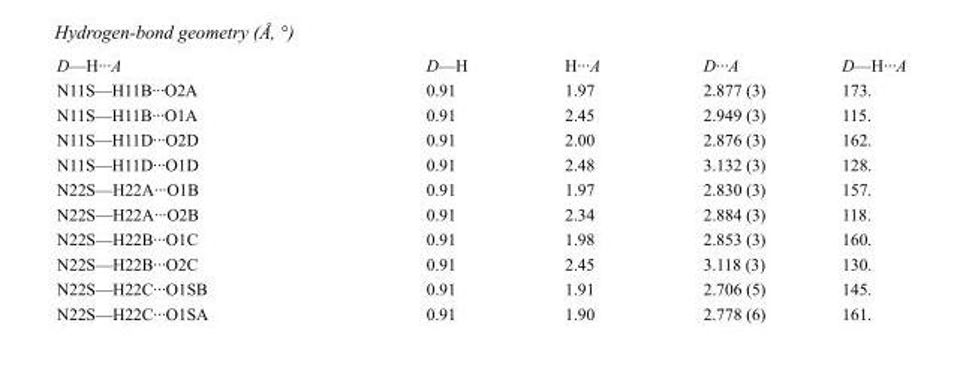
<table><tbody><tr><td>D—H···A</td><td>D—H</td><td>H···A</td><td>D···A</td><td>D—H···A</td></tr><tr><td>N11S—H11B···O2A</td><td>0.91</td><td>1.97</td><td>2.877 (3)</td><td>173.</td></tr><tr><td>N11S—H11B···O1A</td><td>0.91</td><td>2.45</td><td>2.949 (3)</td><td>115.</td></tr><tr><td>N11S—H11D···O2D</td><td>0.91</td><td>2.00</td><td>2.876 (3)</td><td>162.</td></tr><tr><td>N11S—H11D···O1D</td><td>0.91</td><td>2.48</td><td>3.132 (3)</td><td>128.</td></tr><tr><td>N22S—H22A···O1B</td><td>0.91</td><td>1.97</td><td>2.830 (3)</td><td>157.</td></tr><tr><td>N22S—H22A···O2B</td><td>0.91</td><td>2.34</td><td>2.884 (3)</td><td>118.</td></tr><tr><td>N22S—H22B···O1C</td><td>0.91</td><td>1.98</td><td>2.853 (3)</td><td>160.</td></tr><tr><td>N22S—H22B···O2C</td><td>0.91</td><td>2.45</td><td>3.118 (3)</td><td>130.</td></tr><tr><td>N22S—H22C···O1SB</td><td>0.91</td><td>1.91</td><td>2.706 (5)</td><td>145.</td></tr><tr><td>N22S—H22C···O1SA</td><td>0.91</td><td>1.90</td><td>2.778 (6)</td><td>161.</td></tr></tbody></table>